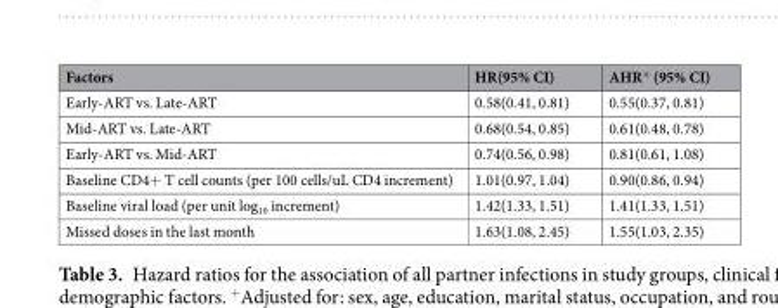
<table><thead><tr><td>Factors</td><td>HR(95% CI)</td><td>AHR<sup>+</sup> (95% CI)</td></tr></thead><tbody><tr><td>Early-ART vs. Late-ART</td><td>0.58(0.41, 0.81)</td><td>0.55(0.37, 0.81)</td></tr><tr><td>Mid-ART vs. Late-ART</td><td>0.68(0.54, 0.85)</td><td>0.61(0.48, 0.78)</td></tr><tr><td>Early-ART vs. Mid-ART</td><td>0.74(0.56, 0.98)</td><td>0.81(0.61, 1.08)</td></tr><tr><td>Baseline CD4+ T cell counts (per 100 cells/uL CD4 increment)</td><td>1.01(0.97, 1.04)</td><td>0.90(0.86, 0.94)</td></tr><tr><td>Baseline viral load (per unit log<sub>10</sub> increment)</td><td>1.42(1.33, 1.51)</td><td>1.41(1.33, 1.51)</td></tr><tr><td>Missed doses in the last month</td><td>1.63(1.08, 2.45)</td><td>1.55(1.03, 2.35)</td></tr></tbody></table>